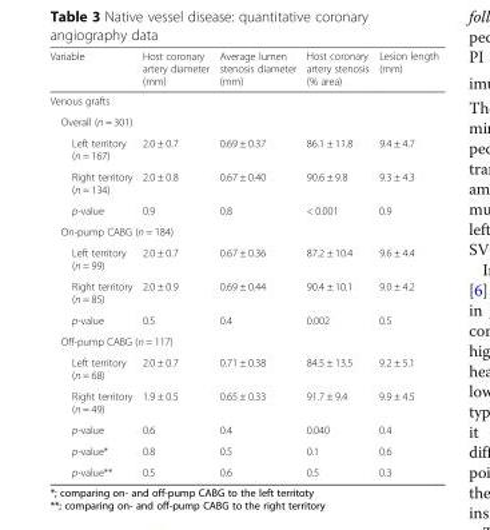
<table><thead><tr><td>Variable</td><td>Host coronary artery diameter (mm)</td><td>Average lumen stenosis diameter (mm)</td><td>Host coronary artery stenosis (% area)</td><td>Lesion length (mm)</td></tr></thead><tbody><tr><td colspan="5">Venous grafts</td></tr><tr><td colspan="5">Overall (n = 301)</td></tr><tr><td>Left territory (n = 167)</td><td>2.0 ± 0.7</td><td>0.69 ± 0.37</td><td>86.1 ± 11.8</td><td>9.4 ± 4.7</td></tr><tr><td>Right territory (n = 134)</td><td>2.0 ± 0.8</td><td>0.67 ± 0.40</td><td>90.6 ± 9.8</td><td>9.3 ± 4.3</td></tr><tr><td>p-value</td><td>0.9</td><td>0.8</td><td>&lt; 0.001</td><td>0.9</td></tr><tr><td colspan="5">On-pump CABG (n = 184)</td></tr><tr><td>Left territory (n = 99)</td><td>2.0 ± 0.7</td><td>0.67 ± 0.36</td><td>87.2 ± 10.4</td><td>9.6 ± 4.4</td></tr><tr><td>Right territory (n = 85)</td><td>2.0 ± 0.9</td><td>0.69 ± 0.44</td><td>90.4 ± 10.1</td><td>9.0 ± 4.2</td></tr><tr><td>p-value</td><td>0.5</td><td>0.4</td><td>0.002</td><td>0.5</td></tr><tr><td colspan="5">Off-pump CABG (n = 117)</td></tr><tr><td>Left territory (n = 68)</td><td>2.0 ± 0.7</td><td>0.71 ± 0.38</td><td>84.5 ± 13.5</td><td>9.2 ± 5.1</td></tr><tr><td>Right territory (n = 49)</td><td>1.9 ± 0.5</td><td>0.65 ± 0.33</td><td>91.7 ± 9.4</td><td>9.9 ± 4.5</td></tr><tr><td>p-value</td><td>0.6</td><td>0.4</td><td>0.040</td><td>0.4</td></tr><tr><td>p-value*</td><td>0.8</td><td>0.5</td><td>0.1</td><td>0.6</td></tr><tr><td>p-value**</td><td>0.5</td><td>0.6</td><td>0.5</td><td>0.3</td></tr></tbody></table>